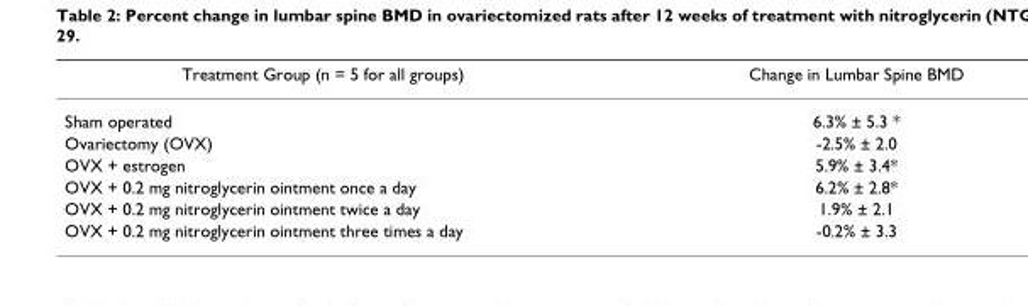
<table><thead><tr><td>Treatment Group (n = 5 for all groups)</td><td>Change in Lumbar Spine BMD</td></tr></thead><tbody><tr><td>Sham operated</td><td>6.3% ± 5.3 *</td></tr><tr><td>Ovariectomy (OVX)</td><td>-2.5% ± 2.0</td></tr><tr><td>OVX + estrogen</td><td>5.9% ± 3.4*</td></tr><tr><td>OVX + 0.2 mg nitroglycerin ointment once a day</td><td>6.2% ± 2.8*</td></tr><tr><td>OVX + 0.2 mg nitroglycerin ointment twice a day</td><td>1.9% ± 2.1</td></tr><tr><td>OVX + 0.2 mg nitroglycerin ointment three times a day</td><td>-0.2% ± 3.3</td></tr></tbody></table>